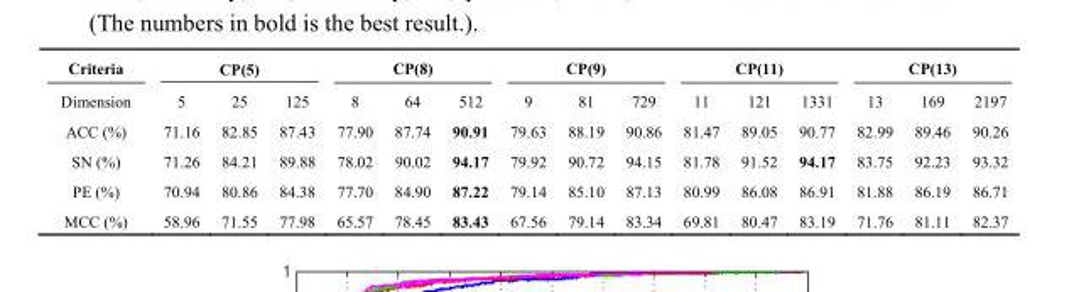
<table><thead><tr><td rowspan="2">Criteria Dimension</td><td colspan="3">CP(5)</td><td colspan="3">CP(8)</td><td colspan="3">CP(9)</td><td colspan="3">CP(11)</td><td colspan="3">CP(13)</td></tr><tr><td>5</td><td>25</td><td>125</td><td>8</td><td>64</td><td>512</td><td>9</td><td>81</td><td>729</td><td>11</td><td>121</td><td>1331</td><td>13</td><td>169</td><td>2197</td></tr></thead><tbody><tr><td>ACC (%)</td><td>71.16</td><td>82.85</td><td>87.43</td><td>77.90</td><td>87.74</td><td>90.91</td><td>79.63</td><td>88.19</td><td>90.86</td><td>81.47</td><td>89.05</td><td>90.77</td><td>82.99</td><td>89.46</td><td>90.26</td></tr><tr><td>SN (%)</td><td>71.26</td><td>84.21</td><td>89.88</td><td>78.02</td><td>90.02</td><td>94.17</td><td>79.92</td><td>90.72</td><td>94.15</td><td>81.78</td><td>91.52</td><td>94.17</td><td>83.75</td><td>92.23</td><td>93.32</td></tr><tr><td>PE (%)</td><td>70.94</td><td>80.86</td><td>84.38</td><td>77.70</td><td>84.90</td><td>87.22</td><td>79.14</td><td>85.10</td><td>87.13</td><td>80.99</td><td>86.08</td><td>86.91</td><td>81.88</td><td>86.19</td><td>86.71</td></tr><tr><td>MCC (%)</td><td>58.96</td><td>71.55</td><td>77.98</td><td>65.57</td><td>78.45</td><td>83.43</td><td>67.56</td><td>79.14</td><td>83.34</td><td>69.81</td><td>80.47</td><td>83.19</td><td>71.76</td><td>81.11</td><td>82.37</td></tr></tbody></table>